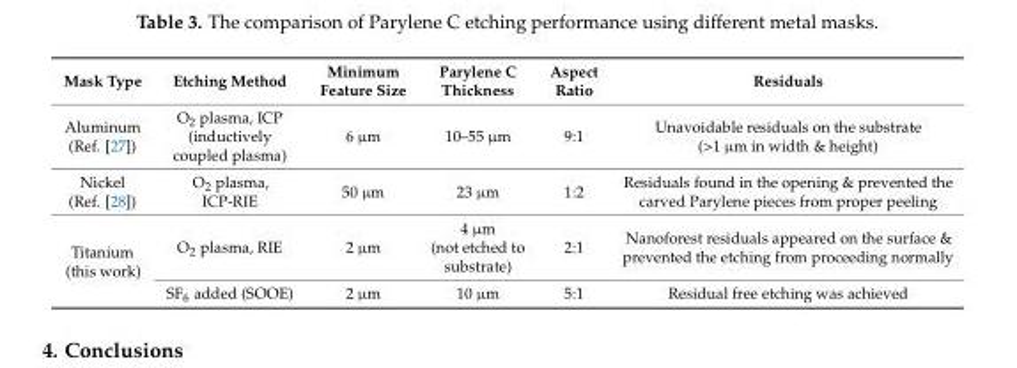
<table><thead><tr><td>Mask Type</td><td>Etching Method</td><td>Minimum Feature Size</td><td>Parylene C Thickness</td><td>Aspect Ratio</td><td>Residuals</td></tr></thead><tbody><tr><td>Aluminum (Ref. [27])</td><td>O<sub>2</sub> plasma, ICP (inductively coupled plasma)</td><td>6 µm</td><td>10–55 µm</td><td>9:1</td><td>Unavoidable residuals on the substrate (&gt;1 µm in width &amp; height)</td></tr><tr><td>Nickel (Ref. [28])</td><td>O<sub>2</sub> plasma, ICP-RIE</td><td>50 µm</td><td>23 µm</td><td>1:2</td><td>Residuals found in the opening &amp; prevented the carved Parylene pieces from proper peeling</td></tr><tr><td rowspan="2">Titanium (this work)</td><td>O<sub>2</sub> plasma, RIE</td><td>2 µm</td><td>4 µm (not etched to substrate)</td><td>2:1</td><td>Nanoforest residuals appeared on the surface &amp; prevented the etching from proceeding normally</td></tr><tr><td>SF<sub>6</sub> added (SOOE)</td><td>2 µm</td><td>10 µm</td><td>5:1</td><td>Residual free etching was achieved</td></tr></tbody></table>